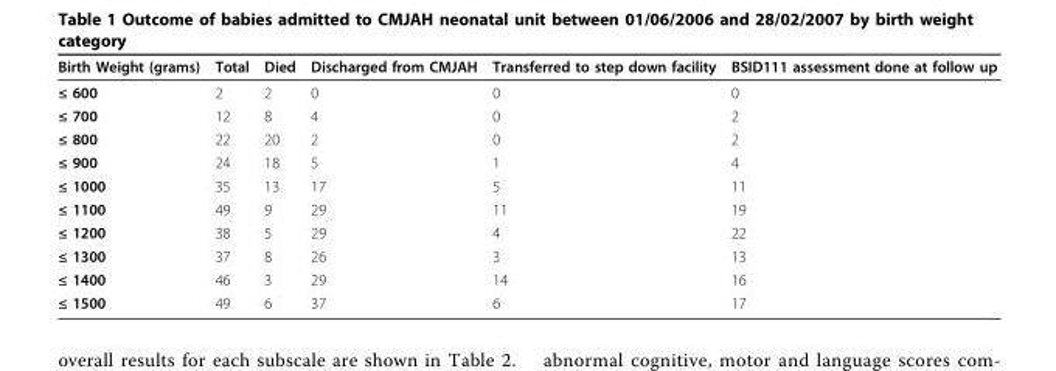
<table><thead><tr><td>Birth Weight (grams)</td><td>Total</td><td>Died</td><td>Discharged from CMJAH</td><td>Transferred to step down facility</td><td>BSID111 assessment done at follow up</td></tr></thead><tbody><tr><td>≤ 600</td><td>2</td><td>2</td><td>0</td><td>0</td><td>0</td></tr><tr><td>≤ 700</td><td>12</td><td>8</td><td>4</td><td>0</td><td>2</td></tr><tr><td>≤ 800</td><td>22</td><td>20</td><td>2</td><td>0</td><td>2</td></tr><tr><td>≤ 900</td><td>24</td><td>18</td><td>5</td><td>1</td><td>4</td></tr><tr><td>≤ 1000</td><td>35</td><td>13</td><td>17</td><td>5</td><td>11</td></tr><tr><td>≤ 1100</td><td>49</td><td>9</td><td>29</td><td>11</td><td>19</td></tr><tr><td>≤ 1200</td><td>38</td><td>5</td><td>29</td><td>4</td><td>22</td></tr><tr><td>≤ 1300</td><td>37</td><td>8</td><td>26</td><td>3</td><td>13</td></tr><tr><td>≤ 1400</td><td>46</td><td>3</td><td>29</td><td>14</td><td>16</td></tr><tr><td>≤ 1500</td><td>49</td><td>6</td><td>37</td><td>6</td><td>17</td></tr></tbody></table>